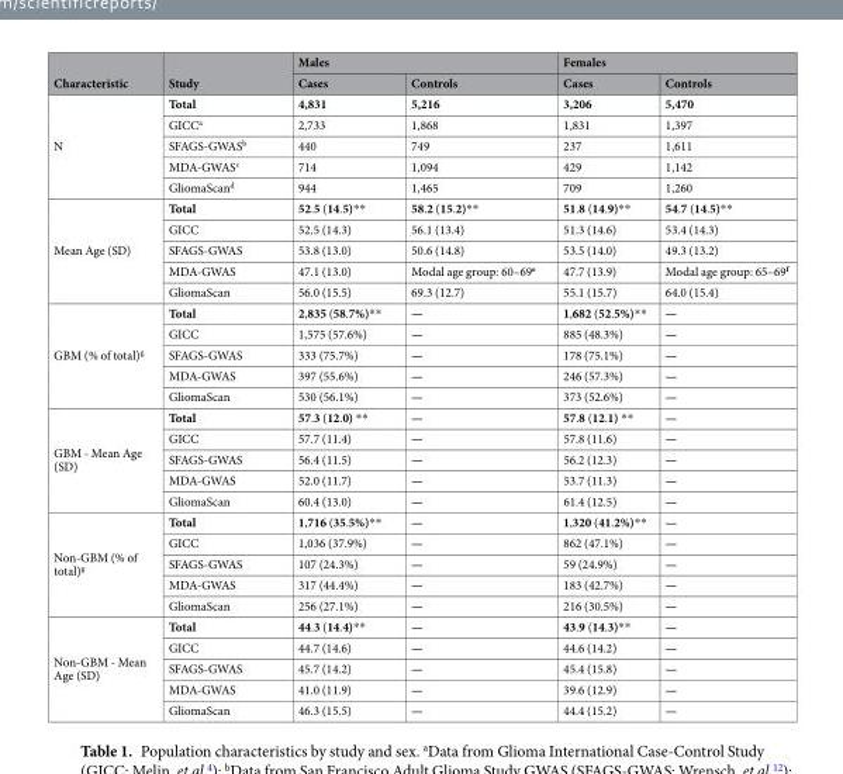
<table><thead><tr><td rowspan="2">Characteristic</td><td rowspan="2">Study</td><td colspan="2">Males</td><td colspan="2">Females</td></tr><tr><td>Cases</td><td>Controls</td><td>Cases</td><td>Controls</td></tr></thead><tbody><tr><td rowspan="5">N</td><td>Total</td><td>4,831</td><td>5,216</td><td>3,206</td><td>5,470</td></tr><tr><td>GICC<sup>a</sup></td><td>2,733</td><td>1,868</td><td>1,831</td><td>1,397</td></tr><tr><td>SFAGS-GWAS<sup>b</sup></td><td>440</td><td>749</td><td>237</td><td>1,611</td></tr><tr><td>MDA-GWAS<sup>c</sup></td><td>714</td><td>1,094</td><td>429</td><td>1,142</td></tr><tr><td>GliomaScan<sup>d</sup></td><td>944</td><td>1,465</td><td>709</td><td>1,260</td></tr><tr><td rowspan="5">Mean Age (SD)</td><td>Total</td><td>52.5 (14.5)**</td><td>58.2 (15.2)**</td><td>51.8 (14.9)**</td><td>54.7 (14.5)**</td></tr><tr><td>GICC</td><td>52.5 (14.3)</td><td>56.1 (13.4)</td><td>51.3 (14.6)</td><td>53.4 (14.3)</td></tr><tr><td>SFAGS-GWAS</td><td>53.8 (13.0)</td><td>50.6 (14.8)</td><td>53.5 (14.0)</td><td>49.3 (13.2)</td></tr><tr><td>MDA-GWAS</td><td>47.1 (13.0)</td><td>Modal age group: 60–69<sup>e</sup></td><td>47.7 (13.9)</td><td>Modal age group: 65–69<sup>f</sup></td></tr><tr><td>GliomaScan</td><td>56.0 (15.5)</td><td>69.3 (12.7)</td><td>55.1 (15.7)</td><td>64.0 (15.4)</td></tr><tr><td rowspan="5">GBM (% of total)<sup>g</sup></td><td>Total</td><td>2,835 (58.7%)**</td><td>—</td><td>1,682 (52.5%)**</td><td>—</td></tr><tr><td>GICC</td><td>1,575 (57.6%)</td><td>—</td><td>885 (48.3%)</td><td>—</td></tr><tr><td>SFAGS-GWAS</td><td>333 (75.7%)</td><td>—</td><td>178 (75.1%)</td><td>—</td></tr><tr><td>MDA-GWAS</td><td>397 (55.6%)</td><td>—</td><td>246 (57.3%)</td><td>—</td></tr><tr><td>GliomaScan</td><td>530 (56.1%)</td><td>—</td><td>373 (52.6%)</td><td>—</td></tr><tr><td rowspan="5">GBM - Mean Age (SD)</td><td>Total</td><td>57.3 (12.0) **</td><td>—</td><td>57.8 (12.1) **</td><td>—</td></tr><tr><td>GICC</td><td>57.7 (11.4)</td><td>—</td><td>57.8 (11.6)</td><td>—</td></tr><tr><td>SFAGS-GWAS</td><td>56.4 (11.5)</td><td>—</td><td>56.2 (12.3)</td><td>—</td></tr><tr><td>MDA-GWAS</td><td>52.0 (11.7)</td><td>—</td><td>53.7 (11.3)</td><td>—</td></tr><tr><td>GliomaScan</td><td>60.4 (13.0)</td><td>—</td><td>61.4 (12.5)</td><td>—</td></tr><tr><td rowspan="5">Non-GBM (% of total)<sup>g</sup></td><td>Total</td><td>1,716 (35.5%)**</td><td>—</td><td>1,320 (41.2%)**</td><td>—</td></tr><tr><td>GICC</td><td>1,036 (37.9%)</td><td>—</td><td>862 (47.1%)</td><td>—</td></tr><tr><td>SFAGS-GWAS</td><td>107 (24.3%)</td><td>—</td><td>59 (24.9%)</td><td>—</td></tr><tr><td>MDA-GWAS</td><td>317 (44.4%)</td><td>—</td><td>183 (42.7%)</td><td>—</td></tr><tr><td>GliomaScan</td><td>256 (27.1%)</td><td>—</td><td>216 (30.5%)</td><td>—</td></tr><tr><td rowspan="5">Non-GBM - Mean Age (SD)</td><td>Total</td><td>44.3 (14.4)**</td><td>—</td><td>43.9 (14.3)**</td><td>—</td></tr><tr><td>GICC</td><td>44.7 (14.6)</td><td>—</td><td>44.6 (14.2)</td><td>—</td></tr><tr><td>SFAGS-GWAS</td><td>45.7 (14.2)</td><td>—</td><td>45.4 (15.8)</td><td>—</td></tr><tr><td>MDA-GWAS</td><td>41.0 (11.9)</td><td>—</td><td>39.6 (12.9)</td><td>—</td></tr><tr><td>GliomaScan</td><td>46.3 (15.5)</td><td>—</td><td>44.4 (15.2)</td><td>—</td></tr></tbody></table>